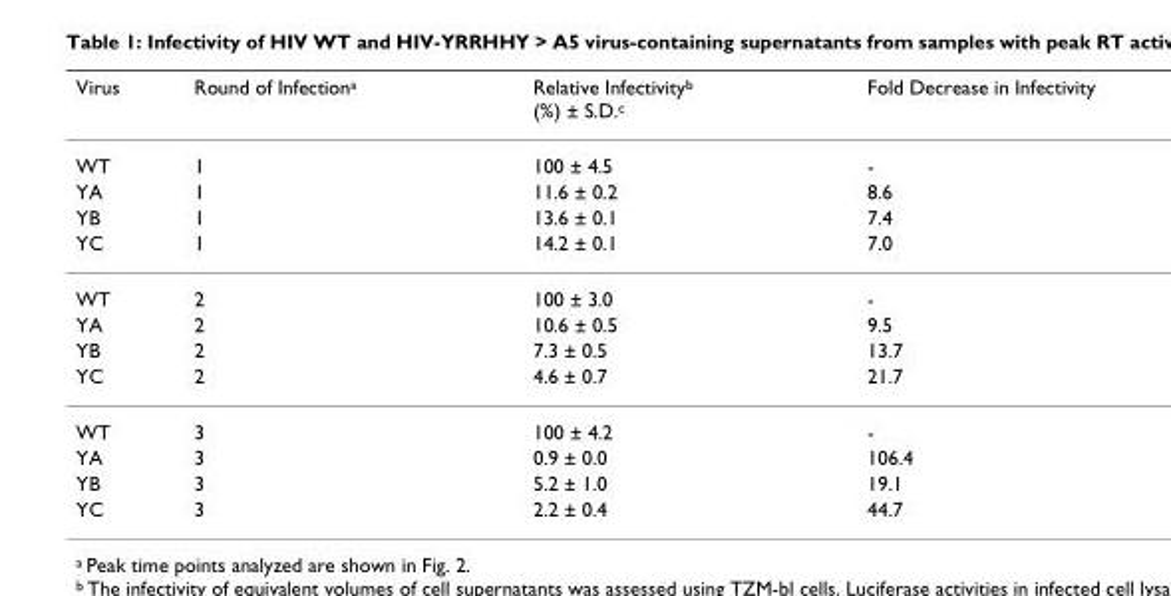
<table><thead><tr><td>Virus</td><td>Round of Infection<sup>a</sup></td><td>Relative Infectivity<sup>b</sup> (%) ± S.D.<sup>c</sup></td><td>Fold Decrease in Infectivity</td></tr></thead><tbody><tr><td>WT</td><td>1</td><td>100 ± 4.5</td><td>-</td></tr><tr><td>YA</td><td>1</td><td>11.6 ± 0.2</td><td>8.6</td></tr><tr><td>YB</td><td>1</td><td>13.6 ± 0.1</td><td>7.4</td></tr><tr><td>YC</td><td>1</td><td>14.2 ± 0.1</td><td>7.0</td></tr><tr><td>WT</td><td>2</td><td>100 ± 3.0</td><td>-</td></tr><tr><td>YA</td><td>2</td><td>10.6 ± 0.5</td><td>9.5</td></tr><tr><td>YB</td><td>2</td><td>7.3 ± 0.5</td><td>13.7</td></tr><tr><td>YC</td><td>2</td><td>4.6 ± 0.7</td><td>21.7</td></tr><tr><td>WT</td><td>3</td><td>100 ± 4.2</td><td>-</td></tr><tr><td>YA</td><td>3</td><td>0.9 ± 0.0</td><td>106.4</td></tr><tr><td>YB</td><td>3</td><td>5.2 ± 1.0</td><td>19.1</td></tr><tr><td>YC</td><td>3</td><td>2.2 ± 0.4</td><td>44.7</td></tr></tbody></table>